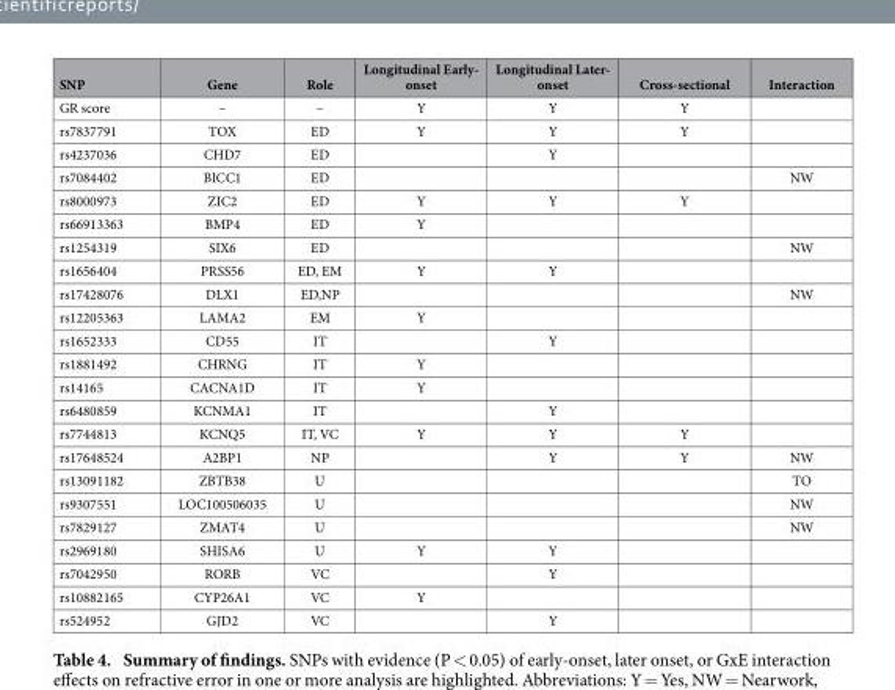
<table><thead><tr><td>SNP</td><td>Gene</td><td>Role</td><td>Longitudinal Early- onset</td><td>Longitudinal Later- onset</td><td>Cross-sectional</td><td>Interaction</td></tr></thead><tbody><tr><td>GR score</td><td>–</td><td>–</td><td>Y</td><td>Y</td><td>Y</td><td></td></tr><tr><td>rs7837791</td><td>TOX</td><td>ED</td><td>Y</td><td>Y</td><td>Y</td><td></td></tr><tr><td>rs4237036</td><td>CHD7</td><td>ED</td><td></td><td>Y</td><td></td><td></td></tr><tr><td>rs7084402</td><td>BICC1</td><td>ED</td><td></td><td></td><td></td><td>NW</td></tr><tr><td>rs8000973</td><td>ZIC2</td><td>ED</td><td>Y</td><td>Y</td><td>Y</td><td></td></tr><tr><td>rs66913363</td><td>BMP4</td><td>ED</td><td>Y</td><td></td><td></td><td></td></tr><tr><td>rs1254319</td><td>SIX6</td><td>ED</td><td></td><td></td><td></td><td>NW</td></tr><tr><td>rs1656404</td><td>PRSS56</td><td>ED, EM</td><td>Y</td><td>Y</td><td></td><td></td></tr><tr><td>rs17428076</td><td>DLX1</td><td>ED,NP</td><td></td><td></td><td></td><td>NW</td></tr><tr><td>rs12205363</td><td>LAMA2</td><td>EM</td><td>Y</td><td></td><td></td><td></td></tr><tr><td>rs1652333</td><td>CD55</td><td>IT</td><td></td><td>Y</td><td></td><td></td></tr><tr><td>rs1881492</td><td>CHRNG</td><td>IT</td><td>Y</td><td></td><td></td><td></td></tr><tr><td>rs14165</td><td>CACNA1D</td><td>IT</td><td>Y</td><td></td><td></td><td></td></tr><tr><td>rs6480859</td><td>KCNMA1</td><td>IT</td><td></td><td>Y</td><td></td><td></td></tr><tr><td>rs7744813</td><td>KCNQ5</td><td>IT, VC</td><td>Y</td><td>Y</td><td>Y</td><td></td></tr><tr><td>rs17648524</td><td>A2BP1</td><td>NP</td><td></td><td>Y</td><td>Y</td><td>NW</td></tr><tr><td>rs13091182</td><td>ZBTB38</td><td>U</td><td></td><td></td><td></td><td>TO</td></tr><tr><td>rs9307551</td><td>LOC100506035</td><td>U</td><td></td><td></td><td></td><td>NW</td></tr><tr><td>rs7829127</td><td>ZMAT4</td><td>U</td><td></td><td></td><td></td><td>NW</td></tr><tr><td>rs2969180</td><td>SHISA6</td><td>U</td><td>Y</td><td>Y</td><td></td><td></td></tr><tr><td>rs7042950</td><td>RORB</td><td>VC</td><td></td><td>Y</td><td></td><td></td></tr><tr><td>rs10882165</td><td>CYP26A1</td><td>VC</td><td>Y</td><td></td><td></td><td></td></tr><tr><td>rs524952</td><td>GJD2</td><td>VC</td><td></td><td>Y</td><td></td><td></td></tr></tbody></table>